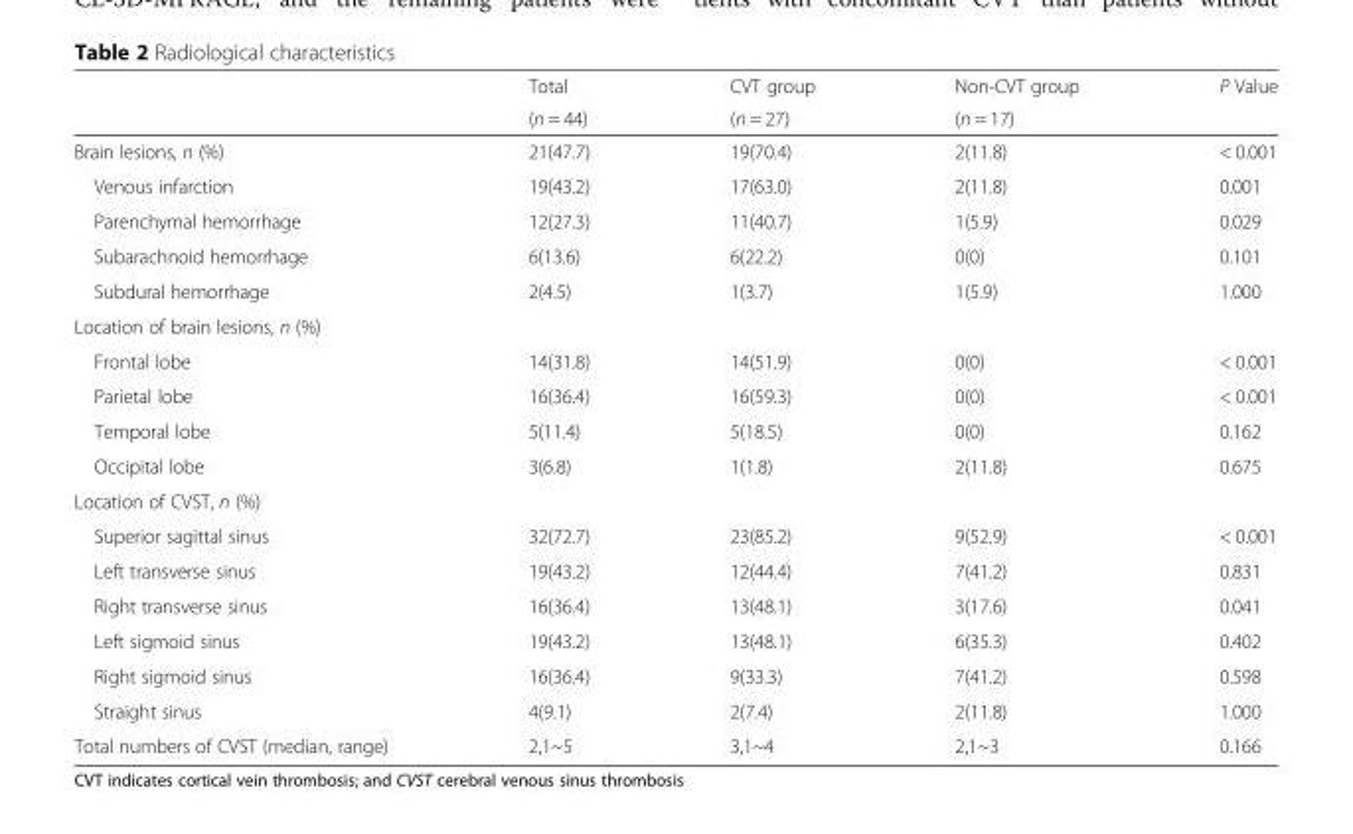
<table><thead><tr><td rowspan="2"></td><td rowspan="2">Total (n = 44)</td><td rowspan="2">CVT group (n = 27)</td><td rowspan="2">Non-CVT group (n = 17)</td><td rowspan="2">P Value</td></tr><tr></tr></thead><tbody><tr><td>Brain lesions, n (%)</td><td>21(47.7)</td><td>19(70.4)</td><td>2(11.8)</td><td>&lt; 0.001</td></tr><tr><td>Venous infarction</td><td>19(43.2)</td><td>17(63.0)</td><td>2(11.8)</td><td>0.001</td></tr><tr><td>Parenchymal hemorrhage</td><td>12(27.3)</td><td>11(40.7)</td><td>1(5.9)</td><td>0.029</td></tr><tr><td>Subarachnoid hemorrhage</td><td>6(13.6)</td><td>6(22.2)</td><td>0(0)</td><td>0.101</td></tr><tr><td>Subdural hemorrhage</td><td>2(4.5)</td><td>1(3.7)</td><td>1(5.9)</td><td>1.000</td></tr><tr><td colspan="5">Location of brain lesions, n (%)</td></tr><tr><td>Frontal lobe</td><td>14(31.8)</td><td>14(51.9)</td><td>0(0)</td><td>&lt; 0.001</td></tr><tr><td>Parietal lobe</td><td>16(36.4)</td><td>16(59.3)</td><td>0(0)</td><td>&lt; 0.001</td></tr><tr><td>Temporal lobe</td><td>5(11.4)</td><td>5(18.5)</td><td>0(0)</td><td>0.162</td></tr><tr><td>Occipital lobe</td><td>3(6.8)</td><td>1(1.8)</td><td>2(11.8)</td><td>0.675</td></tr><tr><td colspan="5">Location of CVST, n (%)</td></tr><tr><td>Superior sagittal sinus</td><td>32(72.7)</td><td>23(85.2)</td><td>9(52.9)</td><td>&lt; 0.001</td></tr><tr><td>Left transverse sinus</td><td>19(43.2)</td><td>12(44.4)</td><td>7(41.2)</td><td>0.831</td></tr><tr><td>Right transverse sinus</td><td>16(36.4)</td><td>13(48.1)</td><td>3(17.6)</td><td>0.041</td></tr><tr><td>Left sigmoid sinus</td><td>19(43.2)</td><td>13(48.1)</td><td>6(35.3)</td><td>0.402</td></tr><tr><td>Right sigmoid sinus</td><td>16(36.4)</td><td>9(33.3)</td><td>7(41.2)</td><td>0.598</td></tr><tr><td>Straight sinus</td><td>4(9.1)</td><td>2(7.4)</td><td>2(11.8)</td><td>1.000</td></tr><tr><td>Total numbers of CVST (median, range)</td><td>2,1~5</td><td>3,1~4</td><td>2,1~3</td><td>0.166</td></tr></tbody></table>